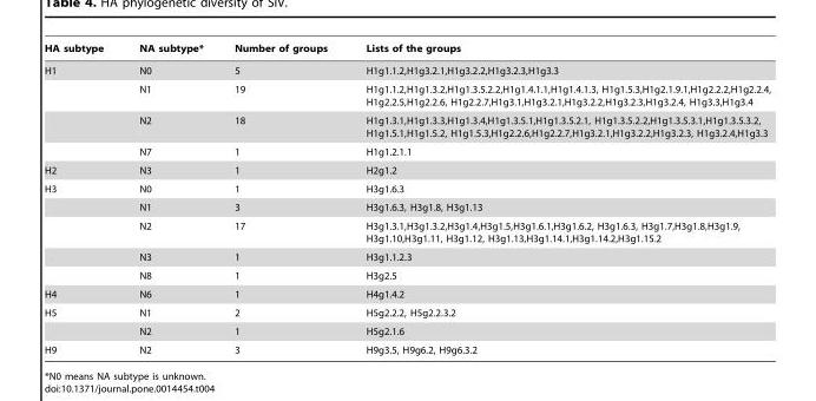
<table><thead><tr><td>HA subtype</td><td>NA subtype*</td><td>Number of groups</td><td>Lists of the groups</td></tr></thead><tbody><tr><td rowspan="4">H1</td><td>N0</td><td>5</td><td>H1g1.1.2,H1g3.2.1,H1g3.2.2,H1g3.2.3,H1g3.3</td></tr><tr><td>N1</td><td>19</td><td>H1g1.1.2,H1g1.3.2,H1g1.3.5.2.2,H1g1.4.1.1,H1g1.4.1.3, H1g1.5.3,H1g2.1.9.1,H1g2.2.2,H1g2.2.4, H1g2.2.5,H1g2.2.6, H1g2.2.7,H1g3.1,H1g3.2.1,H1g3.2.2,H1g3.2.3,H1g3.2.4, H1g3.3,H1g3.4</td></tr><tr><td>N2</td><td>18</td><td>H1g1.3.1,H1g1.3.3,H1g1.3.4,H1g1.3.5.1,H1g1.3.5.2.1, H1g1.3.5.2.2,H1g1.3.5.3.1,H1g1.3.5.3.2, H1g1.5.1,H1g1.5.2, H1g1.5.3,H1g2.2.6,H1g2.2.7,H1g3.2.1,H1g3.2.2,H1g3.2.3, H1g3.2.4,H1g3.3</td></tr><tr><td>N7</td><td>1</td><td>H1g1.2.1.1</td></tr><tr><td>H2</td><td>N3</td><td>1</td><td>H2g1.2</td></tr><tr><td rowspan="5">H3</td><td>N0</td><td>1</td><td>H3g1.6.3</td></tr><tr><td>N1</td><td>3</td><td>H3g1.6.3, H3g1.8, H3g1.13</td></tr><tr><td>N2</td><td>17</td><td>H3g1.3.1,H3g1.3.2,H3g1.4,H3g1.5,H3g1.6.1,H3g1.6.2, H3g1.6.3, H3g1.7,H3g1.8,H3g1.9, H3g1.10,H3g1.11, H3g1.12, H3g1.13,H3g1.14.1,H3g1.14.2,H3g1.15.2</td></tr><tr><td>N3</td><td>1</td><td>H3g1.1.2.3</td></tr><tr><td>N8</td><td>1</td><td>H3g2.5</td></tr><tr><td>H4</td><td>N6</td><td>1</td><td>H4g1.4.2</td></tr><tr><td rowspan="2">H5</td><td>N1</td><td>2</td><td>H5g2.2.2, H5g2.2.3.2</td></tr><tr><td>N2</td><td>1</td><td>H5g2.1.6</td></tr><tr><td>H9</td><td>N2</td><td>3</td><td>H9g3.5, H9g6.2, H9g6.3.2</td></tr></tbody></table>